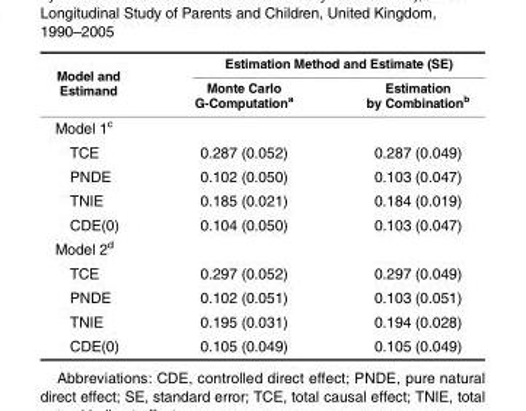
<table><thead><tr><td rowspan="2">Model and Estimand</td><td colspan="2">Estimation Method and Estimate (SE)</td></tr><tr><td>Monte Carlo G-Computation<sup>a</sup></td><td>Estimation by Combination<sup>b</sup></td></tr></thead><tbody><tr><td colspan="3">Model 1<sup>c</sup></td></tr><tr><td>TCE</td><td>0.287 (0.052)</td><td>0.287 (0.049)</td></tr><tr><td>PNDE</td><td>0.102 (0.050)</td><td>0.103 (0.047)</td></tr><tr><td>TNIE</td><td>0.185 (0.021)</td><td>0.184 (0.019)</td></tr><tr><td>CDE(0)</td><td>0.104 (0.050)</td><td>0.103 (0.047)</td></tr><tr><td colspan="3">Model 2<sup>d</sup></td></tr><tr><td>TCE</td><td>0.297 (0.052)</td><td>0.297 (0.049)</td></tr><tr><td>PNDE</td><td>0.102 (0.051)</td><td>0.103 (0.051)</td></tr><tr><td>TNIE</td><td>0.195 (0.031)</td><td>0.194 (0.028)</td></tr><tr><td>CDE(0)</td><td>0.105 (0.049)</td><td>0.105 (0.049)</td></tr></tbody></table>